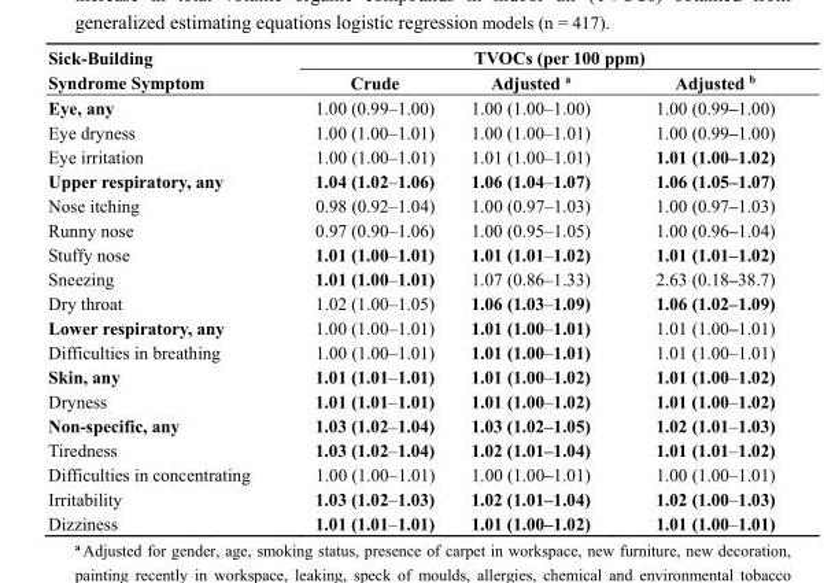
<table><thead><tr><td rowspan="2">Sick-Building Syndrome Symptom</td><td colspan="3">TVOCs (per 100 ppm)</td></tr><tr><td>Crude</td><td>Adjusted <sup>a</sup></td><td>Adjusted <sup>b</sup></td></tr></thead><tbody><tr><td>Eye, any</td><td>1.00 (0.99–1.00)</td><td>1.00 (1.00–1.00)</td><td>1.00 (0.99–1.00)</td></tr><tr><td>Eye dryness</td><td>1.00 (1.00–1.01)</td><td>1.00 (1.00–1.01)</td><td>1.00 (0.99–1.00)</td></tr><tr><td>Eye irritation</td><td>1.00 (1.00–1.01)</td><td>1.01 (1.00–1.01)</td><td>1.01 (1.00–1.02)</td></tr><tr><td>Upper respiratory, any</td><td>1.04 (1.02–1.06)</td><td>1.06 (1.04–1.07)</td><td>1.06 (1.05–1.07)</td></tr><tr><td>Nose itching</td><td>0.98 (0.92–1.04)</td><td>1.00 (0.97–1.03)</td><td>1.00 (0.97–1.03)</td></tr><tr><td>Runny nose</td><td>0.97 (0.90–1.06)</td><td>1.00 (0.95–1.05)</td><td>1.00 (0.96–1.04)</td></tr><tr><td>Stuffy nose</td><td>1.01 (1.00–1.01)</td><td>1.01 (1.01–1.02)</td><td>1.01 (1.01–1.02)</td></tr><tr><td>Sneezing</td><td>1.01 (1.00–1.01)</td><td>1.07 (0.86–1.33)</td><td>2.63 (0.18–38.7)</td></tr><tr><td>Dry throat</td><td>1.02 (1.00–1.05)</td><td>1.06 (1.03–1.09)</td><td>1.06 (1.02–1.09)</td></tr><tr><td>Lower respiratory, any</td><td>1.00 (1.00–1.01)</td><td>1.01 (1.00–1.01)</td><td>1.01 (1.00–1.01)</td></tr><tr><td>Difficulties in breathing</td><td>1.00 (1.00–1.01)</td><td>1.01 (1.00–1.01)</td><td>1.01 (1.00–1.01)</td></tr><tr><td>Skin, any</td><td>1.01 (1.01–1.01)</td><td>1.01 (1.00–1.02)</td><td>1.01 (1.00–1.02)</td></tr><tr><td>Dryness</td><td>1.01 (1.01–1.01)</td><td>1.01 (1.00–1.02)</td><td>1.01 (1.00–1.02)</td></tr><tr><td>Non-specific, any</td><td>1.03 (1.02–1.04)</td><td>1.03 (1.02–1.05)</td><td>1.02 (1.01–1.03)</td></tr><tr><td>Tiredness</td><td>1.03 (1.02–1.04)</td><td>1.02 (1.01–1.04)</td><td>1.01 (1.01–1.02)</td></tr><tr><td>Difficulties in concentrating</td><td>1.00 (1.00–1.01)</td><td>1.00 (1.00–1.01)</td><td>1.00 (1.00–1.01)</td></tr><tr><td>Irritability</td><td>1.03 (1.02–1.03)</td><td>1.02 (1.01–1.04)</td><td>1.02 (1.00–1.03)</td></tr><tr><td>Dizziness</td><td>1.01 (1.01–1.01)</td><td>1.01 (1.00–1.02)</td><td>1.01 (1.00–1.01)</td></tr></tbody></table>